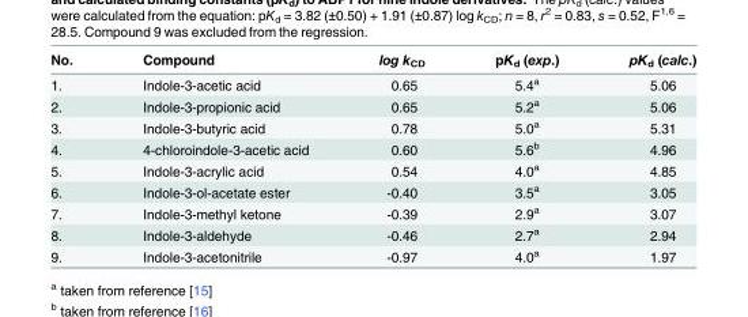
<table><thead><tr><td>No.</td><td>Compound</td><td>log k<sub>CD</sub></td><td>pK<sub>d</sub> (exp.)</td><td>pK<sub>d</sub> (calc.)</td></tr></thead><tbody><tr><td>1.</td><td>Indole-3-acetic acid</td><td>0.65</td><td>5.4<sup>a</sup></td><td>5.06</td></tr><tr><td>2.</td><td>Indole-3-propionic acid</td><td>0.65</td><td>5.2<sup>a</sup></td><td>5.06</td></tr><tr><td>3.</td><td>Indole-3-butyric acid</td><td>0.78</td><td>5.0<sup>a</sup></td><td>5.31</td></tr><tr><td>4.</td><td>4-chloroindole-3-acetic acid</td><td>0.60</td><td>5.6<sup>b</sup></td><td>4.96</td></tr><tr><td>5.</td><td>Indole-3-acrylic acid</td><td>0.54</td><td>4.0<sup>a</sup></td><td>4.85</td></tr><tr><td>6.</td><td>Indole-3-ol-acetate ester</td><td>-0.40</td><td>3.5<sup>a</sup></td><td>3.05</td></tr><tr><td>7.</td><td>Indole-3-methyl ketone</td><td>-0.39</td><td>2.9<sup>a</sup></td><td>3.07</td></tr><tr><td>8.</td><td>Indole-3-aldehyde</td><td>-0.46</td><td>2.7<sup>a</sup></td><td>2.94</td></tr><tr><td>9.</td><td>Indole-3-acetonitrile</td><td>-0.97</td><td>4.0<sup>a</sup></td><td>1.97</td></tr></tbody></table>